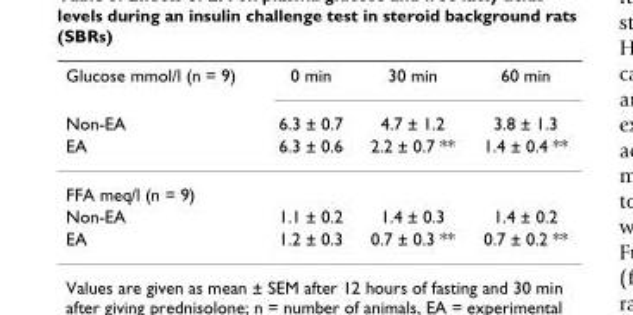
<table><thead><tr><td rowspan="3">Glucose mmol/l (n = 9) Non-EA EA</td><td rowspan="3">0 min 6.3 ± 0.7 6.3 ± 0.6</td><td rowspan="3">30 min 4.7 ± 1.2 2.2 ± 0.7 **</td><td rowspan="3">60 min 3.8 ± 1.3 1.4 ± 0.4 **</td></tr><tr></tr><tr></tr></thead><tbody><tr><td colspan="4">FFA meq/l (n = 9)</td></tr><tr><td>Non-EA</td><td>1.1 ± 0.2</td><td>1.4 ± 0.3</td><td>1.4 ± 0.2</td></tr><tr><td>EA</td><td>1.2 ± 0.3</td><td>0.7 ± 0.3 **</td><td>0.7 ± 0.2 **</td></tr></tbody></table>